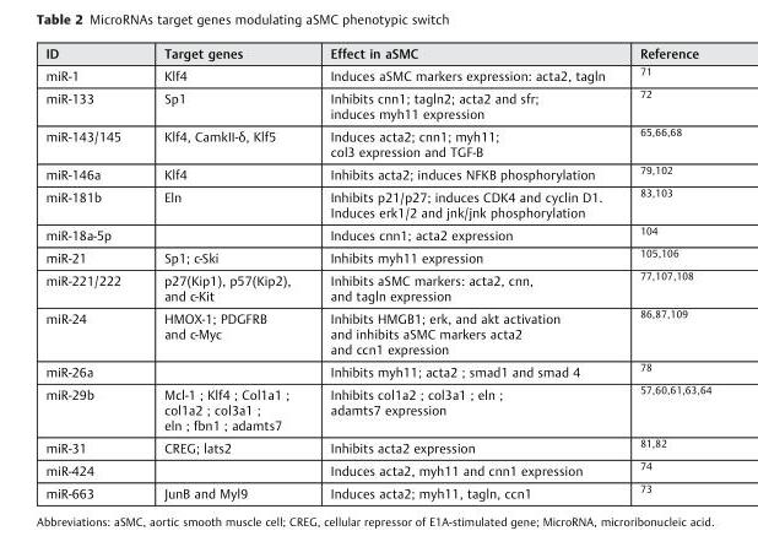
<table><thead><tr><td>ID</td><td>Target genes</td><td>Effect in aSMC</td><td>Reference</td></tr></thead><tbody><tr><td>miR-1</td><td>Klf4</td><td>Induces aSMC markers expression: acta2, tagln</td><td>71</td></tr><tr><td>miR-133</td><td>Sp1</td><td>Inhibits cnn1; tagln2; acta2 and sfr; induces myh11 expression</td><td>72</td></tr><tr><td>miR-143/145</td><td>Klf4, CamkII-δ, Klf5</td><td>Induces acta2; cnn1; myh11; col3 expression and TGF-B</td><td>65,66,68</td></tr><tr><td>miR-146a</td><td>Klf4</td><td>Inhibits acta2; induces NFKB phosphorylation</td><td>79,102</td></tr><tr><td>miR-181b</td><td>Eln</td><td>Inhibits p21/p27; induces CDK4 and cyclin D1. Induces erk1/2 and jnk/jnk phosphorylation</td><td>83,103</td></tr><tr><td>miR-18a-5p</td><td></td><td>Induces cnn1; acta2 expression</td><td>104</td></tr><tr><td>miR-21</td><td>Sp1; c-Ski</td><td>Inhibits myh11 expression</td><td>105,106</td></tr><tr><td>miR-221/222</td><td>p27(Kip1), p57(Kip2), and c-Kit</td><td>Inhibits aSMC markers: acta2, cnn, and tagln expression</td><td>77,107,108</td></tr><tr><td>miR-24</td><td>HMOX-1; PDGFRB and c-Myc</td><td>Inhibits HMGB1; erk, and akt activation and inhibits aSMC markers acta2 and ccn1 expression</td><td>86,87,109</td></tr><tr><td>miR-26a</td><td></td><td>Inhibits myh11; acta2 ; smad1 and smad 4</td><td>78</td></tr><tr><td>miR-29b</td><td>Mcl-1 ; Klf4 ; Col1a1 ; col1a2 ; col3a1 ; eln ; fbn1 ; adamts7</td><td>Inhibits col1a2 ; col3a1 ; eln ; adamts7 expression</td><td>57,60,61,63,64</td></tr><tr><td>miR-31</td><td>CREG; lats2</td><td>Inhibits acta2 expression</td><td>81,82</td></tr><tr><td>miR-424</td><td></td><td>Induces acta2, myh11 and cnn1 expression</td><td>74</td></tr><tr><td>miR-663</td><td>JunB and Myl9</td><td>Induces acta2; myh11, tagln, ccn1</td><td>73</td></tr></tbody></table>